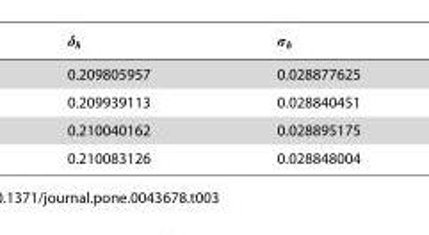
<table><tbody><tr><td>0.209805957</td><td>0.028877625</td></tr><tr><td>0.209939113</td><td>0.028840451</td></tr><tr><td>0.210040162</td><td>0.028895175</td></tr><tr><td>0.210083126</td><td>0.028848004</td></tr></tbody></table>